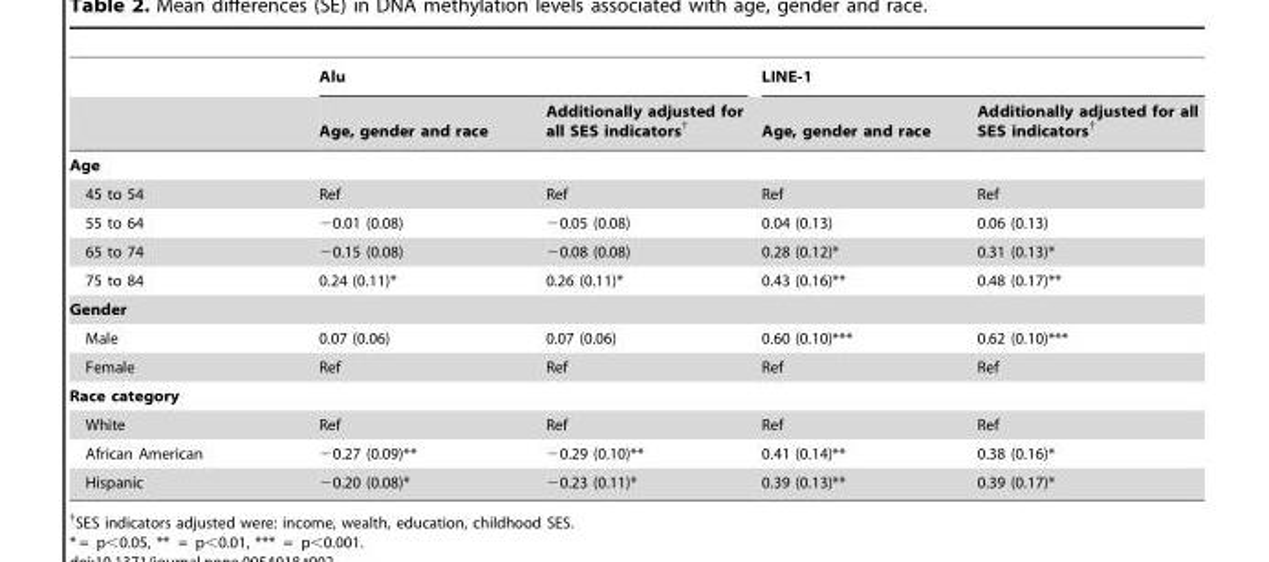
<table><thead><tr><td rowspan="2"></td><td colspan="2">Alu</td><td colspan="2">LINE-1</td></tr><tr><td>Age, gender and race</td><td>Additionally adjusted for all SES indicators†</td><td>Age, gender and race</td><td>Additionally adjusted for all SES indicators†</td></tr></thead><tbody><tr><td colspan="5">Age</td></tr><tr><td>45 to 54</td><td>Ref</td><td>Ref</td><td>Ref</td><td>Ref</td></tr><tr><td>55 to 64</td><td>−0.01 (0.08)</td><td>−0.05 (0.08)</td><td>0.04 (0.13)</td><td>0.06 (0.13)</td></tr><tr><td>65 to 74</td><td>−0.15 (0.08)</td><td>−0.08 (0.08)</td><td>0.28 (0.12)*</td><td>0.31 (0.13)*</td></tr><tr><td>75 to 84</td><td>0.24 (0.11)*</td><td>0.26 (0.11)*</td><td>0.43 (0.16)**</td><td>0.48 (0.17)**</td></tr><tr><td colspan="5">Gender</td></tr><tr><td>Male</td><td>0.07 (0.06)</td><td>0.07 (0.06)</td><td>0.60 (0.10)***</td><td>0.62 (0.10)***</td></tr><tr><td>Female</td><td>Ref</td><td>Ref</td><td>Ref</td><td>Ref</td></tr><tr><td colspan="5">Race category</td></tr><tr><td>White</td><td>Ref</td><td>Ref</td><td>Ref</td><td>Ref</td></tr><tr><td>African American</td><td>−0.27 (0.09)**</td><td>−0.29 (0.10)**</td><td>0.41 (0.14)**</td><td>0.38 (0.16)*</td></tr><tr><td>Hispanic</td><td>−0.20 (0.08)*</td><td>−0.23 (0.11)*</td><td>0.39 (0.13)**</td><td>0.39 (0.17)*</td></tr></tbody></table>